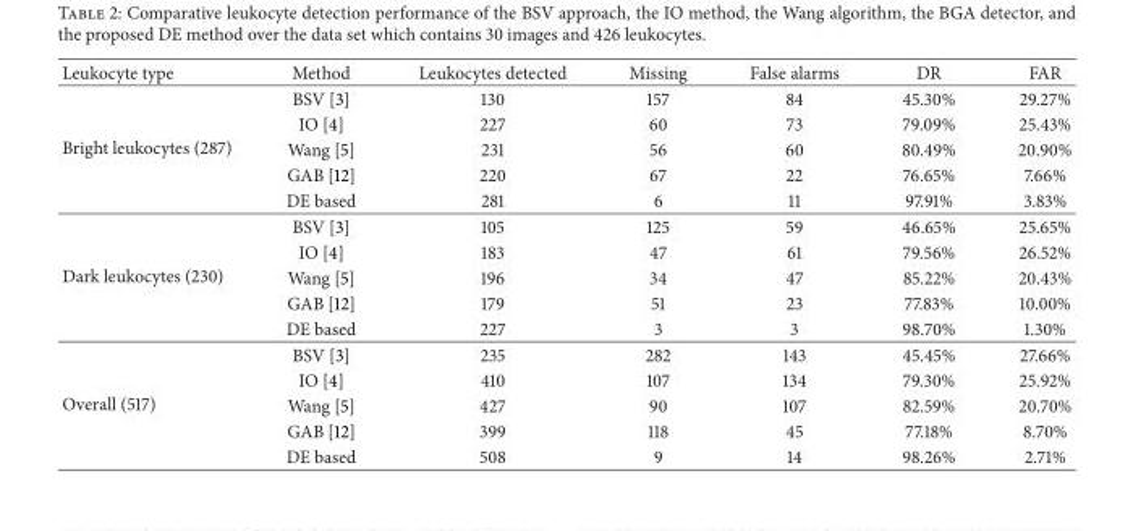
<table><thead><tr><td>Leukocyte type</td><td>Method</td><td>Leukocytes detected</td><td>Missing</td><td>False alarms</td><td>DR</td><td>FAR</td></tr></thead><tbody><tr><td rowspan="5">Bright leukocytes (287)</td><td>BSV [3]</td><td>130</td><td>157</td><td>84</td><td>45.30%</td><td>29.27%</td></tr><tr><td>IO [4]</td><td>227</td><td>60</td><td>73</td><td>79.09%</td><td>25.43%</td></tr><tr><td>Wang [5]</td><td>231</td><td>56</td><td>60</td><td>80.49%</td><td>20.90%</td></tr><tr><td>GAB [12]</td><td>220</td><td>67</td><td>22</td><td>76.65%</td><td>7.66%</td></tr><tr><td>DE based</td><td>281</td><td>6</td><td>11</td><td>97.91%</td><td>3.83%</td></tr><tr><td rowspan="5">Dark leukocytes (230)</td><td>BSV [3]</td><td>105</td><td>125</td><td>59</td><td>46.65%</td><td>25.65%</td></tr><tr><td>IO [4]</td><td>183</td><td>47</td><td>61</td><td>79.56%</td><td>26.52%</td></tr><tr><td>Wang [5]</td><td>196</td><td>34</td><td>47</td><td>85.22%</td><td>20.43%</td></tr><tr><td>GAB [12]</td><td>179</td><td>51</td><td>23</td><td>77.83%</td><td>10.00%</td></tr><tr><td>DE based</td><td>227</td><td>3</td><td>3</td><td>98.70%</td><td>1.30%</td></tr><tr><td rowspan="5">Overall (517)</td><td>BSV [3]</td><td>235</td><td>282</td><td>143</td><td>45.45%</td><td>27.66%</td></tr><tr><td>IO [4]</td><td>410</td><td>107</td><td>134</td><td>79.30%</td><td>25.92%</td></tr><tr><td>Wang [5]</td><td>427</td><td>90</td><td>107</td><td>82.59%</td><td>20.70%</td></tr><tr><td>GAB [12]</td><td>399</td><td>118</td><td>45</td><td>77.18%</td><td>8.70%</td></tr><tr><td>DE based</td><td>508</td><td>9</td><td>14</td><td>98.26%</td><td>2.71%</td></tr></tbody></table>